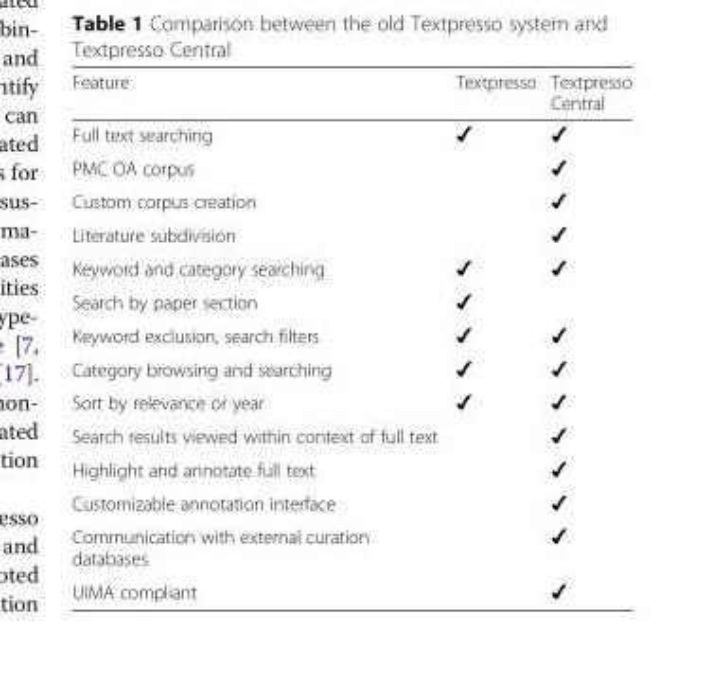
<table><thead><tr><td>Feature</td><td>Textpresso</td><td>Textpresso Central</td></tr></thead><tbody><tr><td>Full text searching</td><td>✔</td><td>✔</td></tr><tr><td>PMC OA corpus</td><td></td><td>✔</td></tr><tr><td>Custom corpus creation</td><td></td><td>✔</td></tr><tr><td>Literature subdivision</td><td></td><td>✔</td></tr><tr><td>Keyword and category searching</td><td>✔</td><td>✔</td></tr><tr><td>Search by paper section</td><td>✔</td><td></td></tr><tr><td>Keyword exclusion, search filters</td><td>✔</td><td>✔</td></tr><tr><td>Category browsing and searching</td><td>✔</td><td>✔</td></tr><tr><td>Sort by relevance or year</td><td>✔</td><td>✔</td></tr><tr><td>Search results viewed within context of full text</td><td></td><td>✔</td></tr><tr><td>Highlight and annotate full text</td><td></td><td>✔</td></tr><tr><td>Customizable annotation interface</td><td></td><td>✔</td></tr><tr><td>Communication with external curation databases</td><td></td><td>✔</td></tr><tr><td>UIMA compliant</td><td></td><td>✔</td></tr></tbody></table>